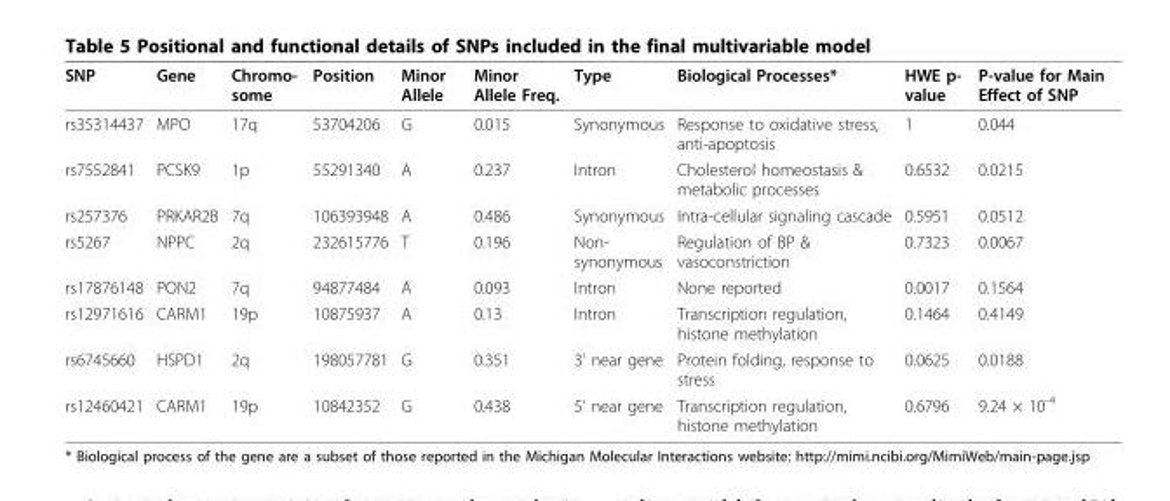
<table><thead><tr><td>SNP</td><td>Gene</td><td>Chromo- some</td><td>Position</td><td>Minor Allele</td><td>Minor Allele Freq.</td><td>Type</td><td>Biological Processes*</td><td>HWE p- value</td><td>P-value for Main Effect of SNP</td></tr></thead><tbody><tr><td>rs35314437</td><td>MPO</td><td>17q</td><td>53704206</td><td>G</td><td>0.015</td><td>Synonymous</td><td>Response to oxidative stress, anti-apoptosis</td><td>1</td><td>0.044</td></tr><tr><td>rs7552841</td><td>PCSK9</td><td>1p</td><td>55291340</td><td>A</td><td>0.237</td><td>Intron</td><td>Cholesterol homeostasis &amp; metabolic processes</td><td>0.6532</td><td>0.0215</td></tr><tr><td>rs257376</td><td>PRKAR2B</td><td>7q</td><td>106393948</td><td>A</td><td>0.486</td><td>Synonymous</td><td>Intra-cellular signaling cascade</td><td>0.5951</td><td>0.0512</td></tr><tr><td>rs5267</td><td>NPPC</td><td>2q</td><td>232615776</td><td>T</td><td>0.196</td><td>Non- synonymous</td><td>Regulation of BP &amp; vasoconstriction</td><td>0.7323</td><td>0.0067</td></tr><tr><td>rs17876148</td><td>PON2</td><td>7q</td><td>94877484</td><td>A</td><td>0.093</td><td>Intron</td><td>None reported</td><td>0.0017</td><td>0.1564</td></tr><tr><td>rs12971616</td><td>CARM1</td><td>19p</td><td>10875937</td><td>A</td><td>0.13</td><td>Intron</td><td>Transcription regulation, histone methylation</td><td>0.1464</td><td>0.4149</td></tr><tr><td>rs6745660</td><td>HSPD1</td><td>2q</td><td>198057781</td><td>G</td><td>0.351</td><td>3’ near gene</td><td>Protein folding, response to stress</td><td>0.0625</td><td>0.0188</td></tr><tr><td>rs12460421</td><td>CARM1</td><td>19p</td><td>10842352</td><td>G</td><td>0.438</td><td>5’ near gene</td><td>Transcription regulation, histone methylation</td><td>0.6796</td><td>9.24 × 10<sup>-4</sup></td></tr></tbody></table>